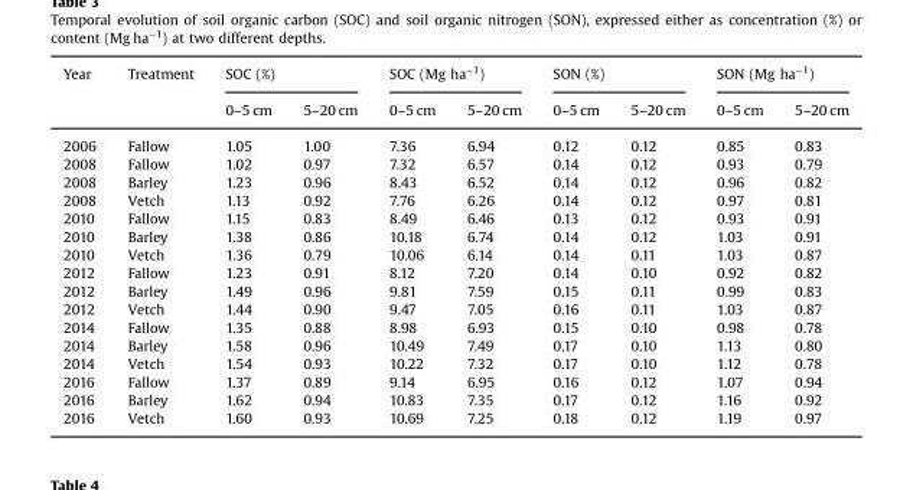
<table><thead><tr><td rowspan="2">Year</td><td rowspan="2">Treatment</td><td colspan="2">SOC (%)</td><td colspan="2">SOC (Mg ha<sup>−1</sup>)</td><td colspan="2">SON (%)</td><td colspan="2">SON (Mg ha<sup>−1</sup>)</td></tr><tr><td>0–5 cm</td><td>5–20 cm</td><td>0–5 cm</td><td>5–20 cm</td><td>0–5 cm</td><td>5–20 cm</td><td>0–5 cm</td><td>5–20 cm</td></tr></thead><tbody><tr><td>2006</td><td>Fallow</td><td>1.05</td><td>1.00</td><td>7.36</td><td>6.94</td><td>0.12</td><td>0.12</td><td>0.85</td><td>0.83</td></tr><tr><td>2008</td><td>Fallow</td><td>1.02</td><td>0.97</td><td>7.32</td><td>6.57</td><td>0.14</td><td>0.12</td><td>0.93</td><td>0.79</td></tr><tr><td>2008</td><td>Barley</td><td>1.23</td><td>0.96</td><td>8.43</td><td>6.52</td><td>0.14</td><td>0.12</td><td>0.96</td><td>0.82</td></tr><tr><td>2008</td><td>Vetch</td><td>1.13</td><td>0.92</td><td>7.76</td><td>6.26</td><td>0.14</td><td>0.12</td><td>0.97</td><td>0.81</td></tr><tr><td>2010</td><td>Fallow</td><td>1.15</td><td>0.83</td><td>8.49</td><td>6.46</td><td>0.13</td><td>0.12</td><td>0.93</td><td>0.91</td></tr><tr><td>2010</td><td>Barley</td><td>1.38</td><td>0.86</td><td>10.18</td><td>6.74</td><td>0.14</td><td>0.12</td><td>1.03</td><td>0.91</td></tr><tr><td>2010</td><td>Vetch</td><td>1.36</td><td>0.79</td><td>10.06</td><td>6.14</td><td>0.14</td><td>0.11</td><td>1.03</td><td>0.87</td></tr><tr><td>2012</td><td>Fallow</td><td>1.23</td><td>0.91</td><td>8.12</td><td>7.20</td><td>0.14</td><td>0.10</td><td>0.92</td><td>0.82</td></tr><tr><td>2012</td><td>Barley</td><td>1.49</td><td>0.96</td><td>9.81</td><td>7.59</td><td>0.15</td><td>0.11</td><td>0.99</td><td>0.83</td></tr><tr><td>2012</td><td>Vetch</td><td>1.44</td><td>0.90</td><td>9.47</td><td>7.05</td><td>0.16</td><td>0.11</td><td>1.03</td><td>0.87</td></tr><tr><td>2014</td><td>Fallow</td><td>1.35</td><td>0.88</td><td>8.98</td><td>6.93</td><td>0.15</td><td>0.10</td><td>0.98</td><td>0.78</td></tr><tr><td>2014</td><td>Barley</td><td>1.58</td><td>0.96</td><td>10.49</td><td>7.49</td><td>0.17</td><td>0.10</td><td>1.13</td><td>0.80</td></tr><tr><td>2014</td><td>Vetch</td><td>1.54</td><td>0.93</td><td>10.22</td><td>7.32</td><td>0.17</td><td>0.10</td><td>1.12</td><td>0.78</td></tr><tr><td>2016</td><td>Fallow</td><td>1.37</td><td>0.89</td><td>9.14</td><td>6.95</td><td>0.16</td><td>0.12</td><td>1.07</td><td>0.94</td></tr><tr><td>2016</td><td>Barley</td><td>1.62</td><td>0.94</td><td>10.83</td><td>7.35</td><td>0.17</td><td>0.12</td><td>1.16</td><td>0.92</td></tr><tr><td>2016</td><td>Vetch</td><td>1.60</td><td>0.93</td><td>10.69</td><td>7.25</td><td>0.18</td><td>0.12</td><td>1.19</td><td>0.97</td></tr></tbody></table>